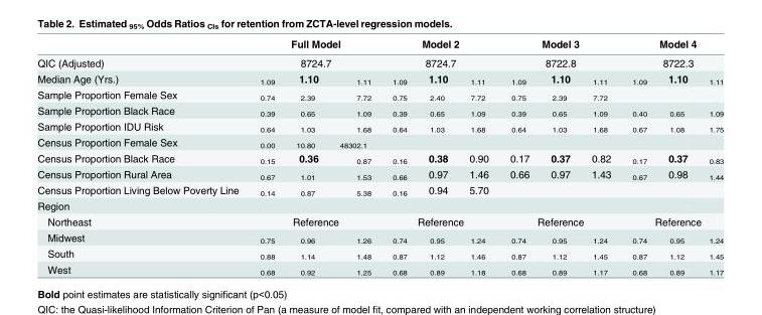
<table><thead><tr><td rowspan="3">QIC (Adjusted) Median Age (Yrs.)</td><td rowspan="2" colspan="3">Full Model 8724.7</td><td rowspan="2" colspan="3">Model 2 8724.7</td><td rowspan="2" colspan="3">Model 3 8722.8</td><td rowspan="2" colspan="3">Model 4 8722.3</td></tr><tr></tr><tr><td><sub>1.09</sub></td><td>1.10</td><td><sub>1.11</sub></td><td><sub>1.09</sub></td><td>1.10</td><td><sub>1.11</sub></td><td><sub>1.09</sub></td><td>1.10</td><td><sub>1.11</sub></td><td><sub>1.09</sub></td><td>1.10</td><td><sub>1.11</sub></td></tr></thead><tbody><tr><td>Sample Proportion Female Sex</td><td><sub>0.74</sub></td><td><sub>2.39</sub></td><td><sub>7.72</sub></td><td><sub>0.75</sub></td><td><sub>2.40</sub></td><td><sub>7.72</sub></td><td><sub>0.75</sub></td><td><sub>2.39</sub></td><td><sub>7.72</sub></td><td></td><td></td><td></td></tr><tr><td>Sample Proportion Black Race</td><td><sub>0.39</sub></td><td><sub>0.65</sub></td><td><sub>1.09</sub></td><td><sub>0.39</sub></td><td><sub>0.65</sub></td><td><sub>1.09</sub></td><td><sub>0.39</sub></td><td><sub>0.65</sub></td><td><sub>1.09</sub></td><td><sub>0.40</sub></td><td><sub>0.65</sub></td><td><sub>1.09</sub></td></tr><tr><td>Sample Proportion IDU Risk</td><td><sub>0.64</sub></td><td><sub>1.03</sub></td><td><sub>1.68</sub></td><td><sub>0.64</sub></td><td><sub>1.03</sub></td><td><sub>1.68</sub></td><td><sub>0.64</sub></td><td><sub>1.03</sub></td><td><sub>1.68</sub></td><td><sub>0.67</sub></td><td><sub>1.08</sub></td><td><sub>1.75</sub></td></tr><tr><td>Census Proportion Female Sex</td><td><sub>0.00</sub></td><td><sub>10.80</sub></td><td><sub>48302.1</sub></td><td></td><td></td><td></td><td></td><td></td><td></td><td></td><td></td><td></td></tr><tr><td>Census Proportion Black Race</td><td><sub>0.15</sub></td><td>0.36</td><td><sub>0.87</sub></td><td><sub>0.16</sub></td><td>0.38</td><td>0.90</td><td>0.17</td><td>0.37</td><td>0.82</td><td><sub>0.17</sub></td><td>0.37</td><td><sub>0.83</sub></td></tr><tr><td>Census Proportion Rural Area</td><td><sub>0.67</sub></td><td><sub>1.01</sub></td><td><sub>1.53</sub></td><td><sub>0.66</sub></td><td>0.97</td><td>1.46</td><td>0.66</td><td>0.97</td><td>1.43</td><td><sub>0.67</sub></td><td>0.98</td><td><sub>1.44</sub></td></tr><tr><td>Census Proportion Living Below Poverty Line</td><td><sub>0.14</sub></td><td><sub>0.87</sub></td><td><sub>5.38</sub></td><td><sub>0.16</sub></td><td>0.94</td><td>5.70</td><td></td><td></td><td></td><td></td><td></td><td></td></tr><tr><td colspan="13">Region</td></tr><tr><td>Northeast</td><td colspan="3">Reference</td><td colspan="3">Reference</td><td colspan="3">Reference</td><td colspan="3">Reference</td></tr><tr><td>Midwest</td><td><sub>0.75</sub></td><td><sub>0.96</sub></td><td><sub>1.26</sub></td><td><sub>0.74</sub></td><td><sub>0.95</sub></td><td><sub>1.24</sub></td><td><sub>0.74</sub></td><td><sub>0.95</sub></td><td><sub>1.24</sub></td><td><sub>0.74</sub></td><td><sub>0.95</sub></td><td><sub>1.24</sub></td></tr><tr><td>South</td><td><sub>0.88</sub></td><td><sub>1.14</sub></td><td><sub>1.48</sub></td><td><sub>0.87</sub></td><td><sub>1.12</sub></td><td><sub>1.46</sub></td><td><sub>0.87</sub></td><td><sub>1.12</sub></td><td><sub>1.45</sub></td><td><sub>0.87</sub></td><td><sub>1.12</sub></td><td><sub>1.45</sub></td></tr><tr><td>West</td><td><sub>0.68</sub></td><td><sub>0.92</sub></td><td><sub>1.25</sub></td><td><sub>0.68</sub></td><td><sub>0.89</sub></td><td><sub>1.18</sub></td><td><sub>0.68</sub></td><td><sub>0.89</sub></td><td><sub>1.17</sub></td><td><sub>0.68</sub></td><td><sub>0.89</sub></td><td><sub>1.17</sub></td></tr></tbody></table>